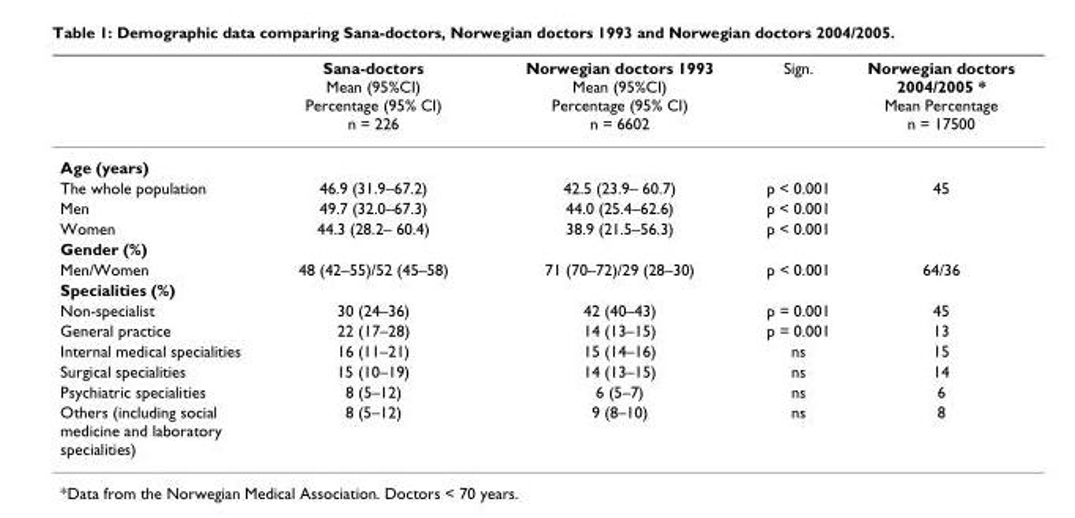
<table><thead><tr><td></td><td>Sana-doctors Mean (95%CI) Percentage (95% CI) n = 226</td><td>Norwegian doctors 1993 Mean (95%CI) Percentage (95% CI) n = 6602</td><td>Sign.</td><td>Norwegian doctors 2004/2005 * Mean Percentage n = 17500</td></tr></thead><tbody><tr><td colspan="5">Age (years)</td></tr><tr><td>The whole population</td><td>46.9 (31.9–67.2)</td><td>42.5 (23.9– 60.7)</td><td>p &lt; 0.001</td><td>45</td></tr><tr><td>Men</td><td>49.7 (32.0–67.3)</td><td>44.0 (25.4–62.6)</td><td>p &lt; 0.001</td><td></td></tr><tr><td>Women</td><td>44.3 (28.2– 60.4)</td><td>38.9 (21.5–56.3)</td><td>p &lt; 0.001</td><td></td></tr><tr><td colspan="5">Gender (%)</td></tr><tr><td>Men/Women</td><td>48 (42–55)/52 (45–58)</td><td>71 (70–72)/29 (28–30)</td><td>p &lt; 0.001</td><td>64/36</td></tr><tr><td colspan="5">Specialities (%)</td></tr><tr><td>Non-specialist</td><td>30 (24–36)</td><td>42 (40–43)</td><td>p = 0.001</td><td>45</td></tr><tr><td>General practice</td><td>22 (17–28)</td><td>14 (13–15)</td><td>p = 0.001</td><td>13</td></tr><tr><td>Internal medical specialities</td><td>16 (11–21)</td><td>15 (14–16)</td><td>ns</td><td>15</td></tr><tr><td>Surgical specialities</td><td>15 (10–19)</td><td>14 (13–15)</td><td>ns</td><td>14</td></tr><tr><td>Psychiatric specialities</td><td>8 (5–12)</td><td>6 (5–7)</td><td>ns</td><td>6</td></tr><tr><td>Others (including social medicine and laboratory specialities)</td><td>8 (5–12)</td><td>9 (8–10)</td><td>ns</td><td>8</td></tr></tbody></table>